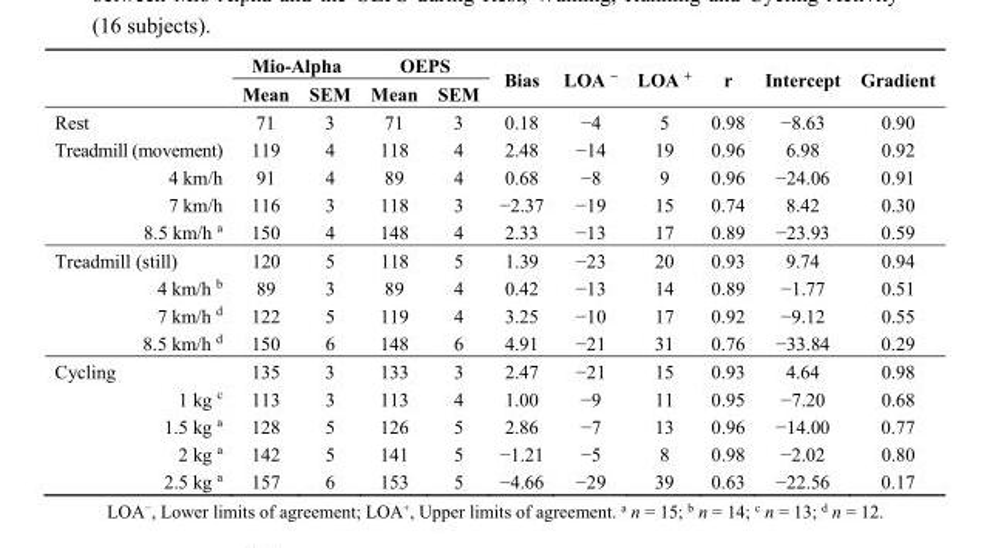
<table><thead><tr><td rowspan="2"></td><td colspan="2">Mio-Alpha</td><td colspan="2">OEPS</td><td rowspan="2">Bias</td><td rowspan="2">LOA <sup>−</sup></td><td rowspan="2">LOA <sup>+</sup></td><td rowspan="2">r</td><td rowspan="2">Intercept</td><td rowspan="2">Gradient</td></tr><tr><td>Mean</td><td>SEM</td><td>Mean</td><td>SEM</td></tr></thead><tbody><tr><td>Rest</td><td>71</td><td>3</td><td>71</td><td>3</td><td>0.18</td><td>−4</td><td>5</td><td>0.98</td><td>−8.63</td><td>0.90</td></tr><tr><td>Treadmill (movement)</td><td>119</td><td>4</td><td>118</td><td>4</td><td>2.48</td><td>−14</td><td>19</td><td>0.96</td><td>6.98</td><td>0.92</td></tr><tr><td>4 km/h</td><td>91</td><td>4</td><td>89</td><td>4</td><td>0.68</td><td>−8</td><td>9</td><td>0.96</td><td>−24.06</td><td>0.91</td></tr><tr><td>7 km/h</td><td>116</td><td>3</td><td>118</td><td>3</td><td>−2.37</td><td>−19</td><td>15</td><td>0.74</td><td>8.42</td><td>0.30</td></tr><tr><td>8.5 km/h <sup>a</sup></td><td>150</td><td>4</td><td>148</td><td>4</td><td>2.33</td><td>−13</td><td>17</td><td>0.89</td><td>−23.93</td><td>0.59</td></tr><tr><td>Treadmill (still)</td><td>120</td><td>5</td><td>118</td><td>5</td><td>1.39</td><td>−23</td><td>20</td><td>0.93</td><td>9.74</td><td>0.94</td></tr><tr><td>4 km/h <sup>b</sup></td><td>89</td><td>3</td><td>89</td><td>4</td><td>0.42</td><td>−13</td><td>14</td><td>0.89</td><td>−1.77</td><td>0.51</td></tr><tr><td>7 km/h <sup>d</sup></td><td>122</td><td>5</td><td>119</td><td>4</td><td>3.25</td><td>−10</td><td>17</td><td>0.92</td><td>−9.12</td><td>0.55</td></tr><tr><td>8.5 km/h <sup>d</sup></td><td>150</td><td>6</td><td>148</td><td>6</td><td>4.91</td><td>−21</td><td>31</td><td>0.76</td><td>−33.84</td><td>0.29</td></tr><tr><td>Cycling</td><td>135</td><td>3</td><td>133</td><td>3</td><td>2.47</td><td>−21</td><td>15</td><td>0.93</td><td>4.64</td><td>0.98</td></tr><tr><td>1 kg <sup>c</sup></td><td>113</td><td>3</td><td>113</td><td>4</td><td>1.00</td><td>−9</td><td>11</td><td>0.95</td><td>−7.20</td><td>0.68</td></tr><tr><td>1.5 kg <sup>a</sup></td><td>128</td><td>5</td><td>126</td><td>5</td><td>2.86</td><td>−7</td><td>13</td><td>0.96</td><td>−14.00</td><td>0.77</td></tr><tr><td>2 kg <sup>a</sup></td><td>142</td><td>5</td><td>141</td><td>5</td><td>−1.21</td><td>−5</td><td>8</td><td>0.98</td><td>−2.02</td><td>0.80</td></tr><tr><td>2.5 kg <sup>a</sup></td><td>157</td><td>6</td><td>153</td><td>5</td><td>−4.66</td><td>−29</td><td>39</td><td>0.63</td><td>−22.56</td><td>0.17</td></tr></tbody></table>